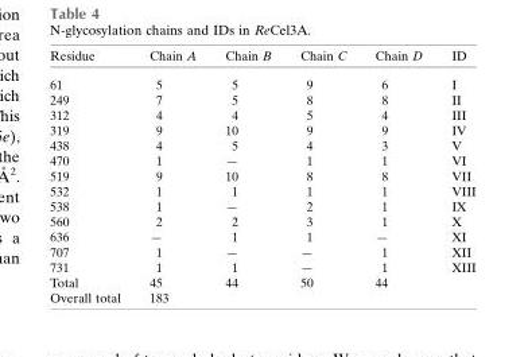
<table><thead><tr><td>Residue</td><td>Chain A</td><td>Chain B</td><td>Chain C</td><td>Chain D</td><td>ID</td></tr></thead><tbody><tr><td>61</td><td>5</td><td>5</td><td>9</td><td>6</td><td>I</td></tr><tr><td>249</td><td>7</td><td>5</td><td>8</td><td>8</td><td>II</td></tr><tr><td>312</td><td>4</td><td>4</td><td>5</td><td>4</td><td>III</td></tr><tr><td>319</td><td>9</td><td>10</td><td>9</td><td>9</td><td>IV</td></tr><tr><td>438</td><td>4</td><td>5</td><td>4</td><td>3</td><td>V</td></tr><tr><td>470</td><td>1</td><td>—</td><td>1</td><td>1</td><td>VI</td></tr><tr><td>519</td><td>9</td><td>10</td><td>8</td><td>8</td><td>VII</td></tr><tr><td>532</td><td>1</td><td>1</td><td>1</td><td>1</td><td>VIII</td></tr><tr><td>538</td><td>1</td><td>—</td><td>2</td><td>1</td><td>IX</td></tr><tr><td>560</td><td>2</td><td>2</td><td>3</td><td>1</td><td>X</td></tr><tr><td>636</td><td>—</td><td>1</td><td>1</td><td>—</td><td>XI</td></tr><tr><td>707</td><td>1</td><td>—</td><td>—</td><td>1</td><td>XII</td></tr><tr><td>731</td><td>1</td><td>1</td><td>—</td><td>1</td><td>XIII</td></tr><tr><td>Total</td><td>45</td><td>44</td><td>50</td><td>44</td><td></td></tr><tr><td>Overall total</td><td colspan="4">183</td><td></td></tr></tbody></table>